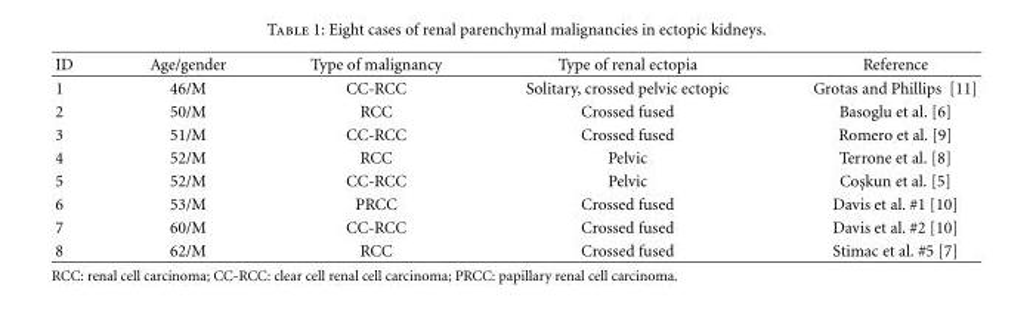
<table><thead><tr><td>ID</td><td>Age/gender</td><td>Type of malignancy</td><td>Type of renal ectopia</td><td>Reference</td></tr></thead><tbody><tr><td>1</td><td>46/M</td><td>CC-RCC</td><td>Solitary, crossed pelvic ectopic</td><td>Grotas and Phillips [11]</td></tr><tr><td>2</td><td>50/M</td><td>RCC</td><td>Crossed fused</td><td>Basoglu et al. [6]</td></tr><tr><td>3</td><td>51/M</td><td>CC-RCC</td><td>Crossed fused</td><td>Romero et al. [9]</td></tr><tr><td>4</td><td>52/M</td><td>RCC</td><td>Pelvic</td><td>Terrone et al. [8]</td></tr><tr><td>5</td><td>52/M</td><td>CC-RCC</td><td>Pelvic</td><td>Cos¸kun et al. [5]</td></tr><tr><td>6</td><td>53/M</td><td>PRCC</td><td>Crossed fused</td><td>Davis et al. #1 [10]</td></tr><tr><td>7</td><td>60/M</td><td>CC-RCC</td><td>Crossed fused</td><td>Davis et al. #2 [10]</td></tr><tr><td>8</td><td>62/M</td><td>RCC</td><td>Crossed fused</td><td>Stimac et al. #5 [7]</td></tr></tbody></table>